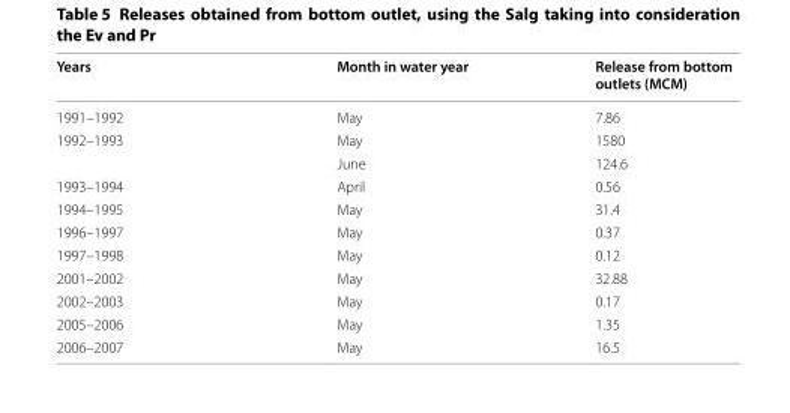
<table><thead><tr><td>Years</td><td>Month in water year</td><td>Release from bottom outlets (MCM)</td></tr></thead><tbody><tr><td>1991–1992</td><td>May</td><td>7.86</td></tr><tr><td rowspan="2">1992–1993</td><td>May</td><td>1580</td></tr><tr><td>June</td><td>124.6</td></tr><tr><td>1993–1994</td><td>April</td><td>0.56</td></tr><tr><td>1994–1995</td><td>May</td><td>31.4</td></tr><tr><td>1996–1997</td><td>May</td><td>0.37</td></tr><tr><td>1997–1998</td><td>May</td><td>0.12</td></tr><tr><td>2001–2002</td><td>May</td><td>32.88</td></tr><tr><td>2002–2003</td><td>May</td><td>0.17</td></tr><tr><td>2005–2006</td><td>May</td><td>1.35</td></tr><tr><td>2006–2007</td><td>May</td><td>16.5</td></tr></tbody></table>